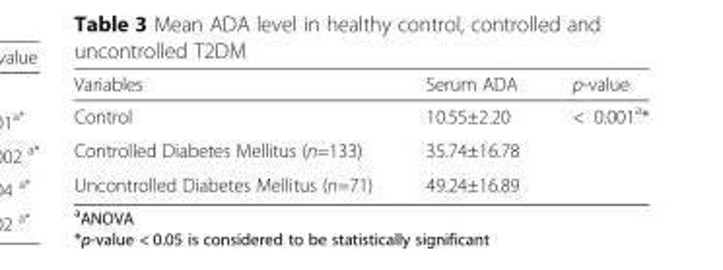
<table><thead><tr><td>Variables</td><td>Serum ADA</td><td>p-value</td></tr></thead><tbody><tr><td>Control</td><td>10.55±2.20</td><td rowspan="3">&lt; 0.001<sup>a</sup>*</td></tr><tr><td>Controlled Diabetes Mellitus (n=133)</td><td>35.74±16.78</td></tr><tr><td>Uncontrolled Diabetes Mellitus (n=71)</td><td>49.24±16.89</td></tr></tbody></table>